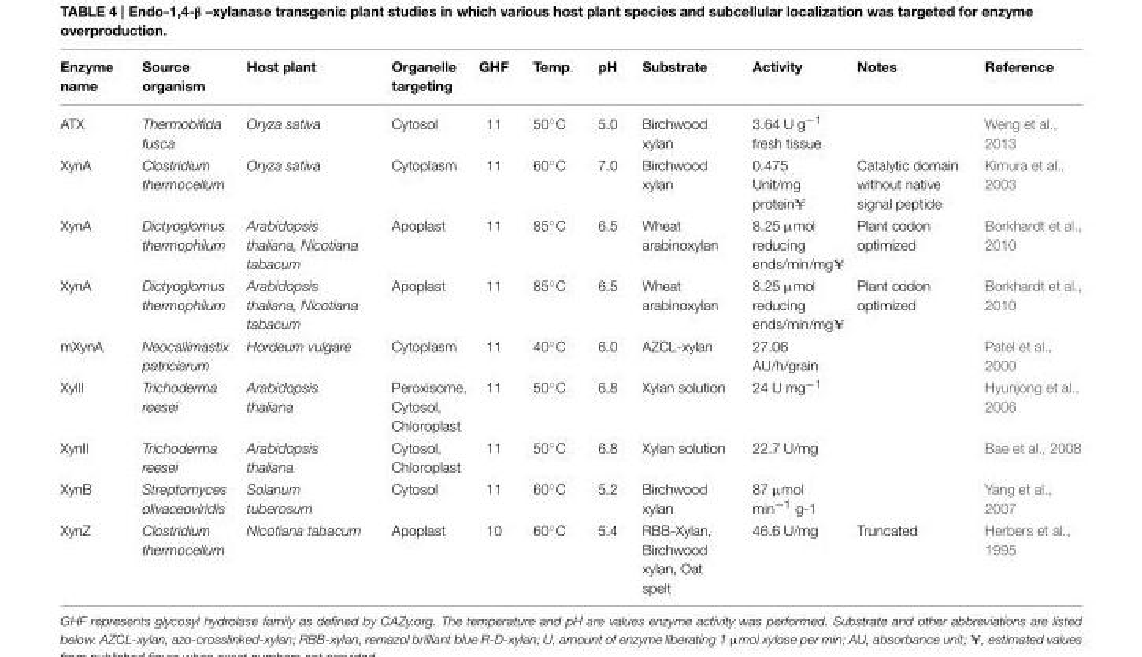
<table><thead><tr><td>Enzyme name</td><td>Source organism</td><td>Host plant</td><td>Organelle targeting</td><td>GHF</td><td>Temp.</td><td>pH</td><td>Substrate</td><td>Activity</td><td>Notes</td><td>Reference</td></tr></thead><tbody><tr><td>ATX</td><td>Thermobifida fusca</td><td>Oryza sativa</td><td>Cytosol</td><td>11</td><td>50◦C</td><td>5.0</td><td>Birchwood xylan</td><td>3.64 U g<sup>−1</sup> fresh tissue</td><td></td><td>Weng et al., 2013</td></tr><tr><td>XynA</td><td>Clostridium thermocellum</td><td>Oryza sativa</td><td>Cytoplasm</td><td>11</td><td>60◦C</td><td>7.0</td><td>Birchwood xylan</td><td>0.475 Unit/mg protein¥</td><td>Catalytic domain without native signal peptide</td><td>Kimura et al., 2003</td></tr><tr><td>XynA</td><td>Dictyoglomus thermophilum</td><td>Arabidopsis thaliana, Nicotiana tabacum</td><td>Apoplast</td><td>11</td><td>85◦C</td><td>6.5</td><td>Wheat arabinoxylan</td><td>8.25 µmol reducing ends/min/mg¥</td><td>Plant codon optimized</td><td>Borkhardt et al., 2010</td></tr><tr><td>XynA</td><td>Dictyoglomus thermophilum</td><td>Arabidopsis thaliana, Nicotiana tabacum</td><td>Apoplast</td><td>11</td><td>85◦C</td><td>6.5</td><td>Wheat arabinoxylan</td><td>8.25 µmol reducing ends/min/mg¥</td><td>Plant codon optimized</td><td>Borkhardt et al., 2010</td></tr><tr><td>mXynA</td><td>Neocallimastix patriciarum</td><td>Hordeum vulgare</td><td>Cytoplasm</td><td>11</td><td>40◦C</td><td>6.0</td><td>AZCL-xylan</td><td>27.06 AU/h/grain</td><td></td><td>Patel et al., 2000</td></tr><tr><td>XylII</td><td>Trichoderma reesei</td><td>Arabidopsis thaliana</td><td>Peroxisome, Cytosol, Chloroplast</td><td>11</td><td>50◦C</td><td>6.8</td><td>Xylan solution</td><td>24 U mg<sup>−1</sup></td><td></td><td>Hyunjong et al., 2006</td></tr><tr><td>XynII</td><td>Trichoderma reesei</td><td>Arabidopsis thaliana</td><td>Cytosol, Chloroplast</td><td>11</td><td>50◦C</td><td>6.8</td><td>Xylan solution</td><td>22.7 U/mg</td><td></td><td>Bae et al., 2008</td></tr><tr><td>XynB</td><td>Streptomyces olivaceoviridis</td><td>Solanum tuberosum</td><td>Cytosol</td><td>11</td><td>60◦C</td><td>5.2</td><td>Birchwood xylan</td><td>87 µmol min<sup>−1</sup> g-1</td><td></td><td>Yang et al., 2007</td></tr><tr><td>XynZ</td><td>Clostridium thermocellum</td><td>Nicotiana tabacum</td><td>Apoplast</td><td>10</td><td>60◦C</td><td>5.4</td><td>RBB-Xylan, Birchwood xylan, Oat spelt</td><td>46.6 U/mg</td><td>Truncated</td><td>Herbers et al., 1995</td></tr></tbody></table>